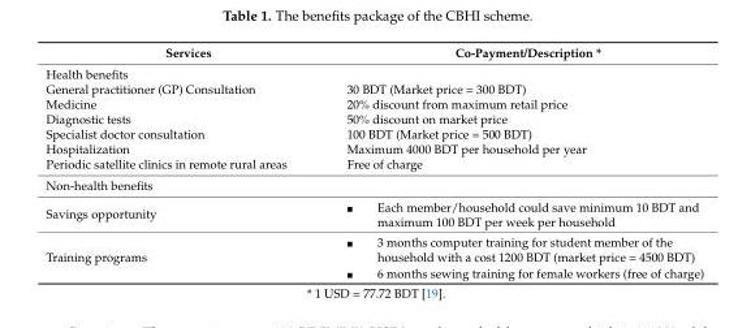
<table><thead><tr><td>Services</td><td>Co-Payment/Description *</td></tr></thead><tbody><tr><td colspan="2">Health benefits</td></tr><tr><td>General practitioner (GP) Consultation</td><td>30 BDT (Market price = 300 BDT)</td></tr><tr><td>Medicine</td><td>20% discount from maximum retail price</td></tr><tr><td>Diagnostic tests</td><td>50% discount on market price</td></tr><tr><td>Specialist doctor consultation</td><td>100 BDT (Market price = 500 BDT)</td></tr><tr><td>Hospitalization</td><td>Maximum 4000 BDT per household per year</td></tr><tr><td>Periodic satellite clinics in remote rural areas</td><td>Free of charge</td></tr><tr><td colspan="2">Non-health benefits</td></tr><tr><td>Savings opportunity</td><td>■ Each member/household could save minimum 10 BDT and maximum 100 BDT per week per household</td></tr><tr><td>Training programs</td><td>■ 3 months computer training for student member of the household with a cost 1200 BDT (market price = 4500 BDT) ■ 6 months sewing training for female workers (free of charge)</td></tr></tbody></table>